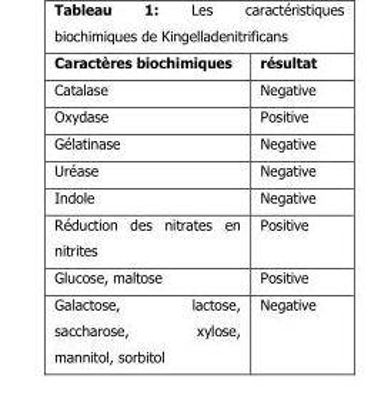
<table><thead><tr><td>Caractères biochimiques</td><td>résultat</td></tr></thead><tbody><tr><td>Catalase</td><td>Negative</td></tr><tr><td>Oxydase</td><td>Positive</td></tr><tr><td>Gélatinase</td><td>Negative</td></tr><tr><td>Uréase</td><td>Negative</td></tr><tr><td>Indole</td><td>Negative</td></tr><tr><td>Réduction des nitrates en nitrites</td><td>Positive</td></tr><tr><td>Glucose, maltose</td><td>Positive</td></tr><tr><td>Galactose, lactose, saccharose, xylose, mannitol, sorbitol</td><td>Negative</td></tr></tbody></table>